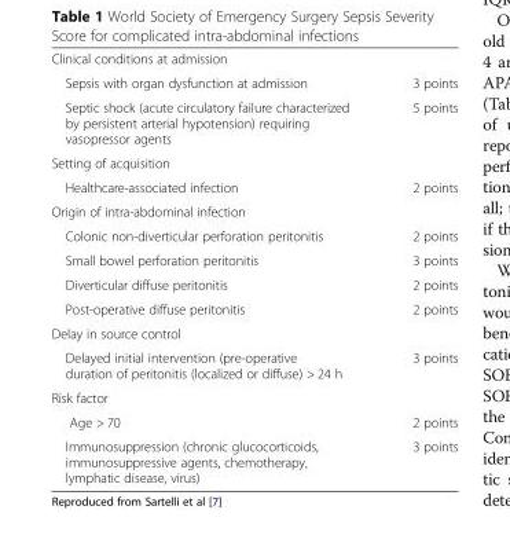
<table><tbody><tr><td colspan="2">Clinical conditions at admission</td></tr><tr><td>Sepsis with organ dysfunction at admission</td><td>3 points</td></tr><tr><td>Septic shock (acute circulatory failure characterized by persistent arterial hypotension) requiring vasopressor agents</td><td>5 points</td></tr><tr><td colspan="2">Setting of acquisition</td></tr><tr><td>Healthcare-associated infection</td><td>2 points</td></tr><tr><td colspan="2">Origin of intra-abdominal infection</td></tr><tr><td>Colonic non-diverticular perforation peritonitis</td><td>2 points</td></tr><tr><td>Small bowel perforation peritonitis</td><td>3 points</td></tr><tr><td>Diverticular diffuse peritonitis</td><td>2 points</td></tr><tr><td>Post-operative diffuse peritonitis</td><td>2 points</td></tr><tr><td colspan="2">Delay in source control</td></tr><tr><td>Delayed initial intervention (pre-operative duration of peritonitis (localized or diffuse) &gt; 24 h</td><td>3 points</td></tr><tr><td colspan="2">Risk factor</td></tr><tr><td>Age &gt; 70</td><td>2 points</td></tr><tr><td>Immunosuppression (chronic glucocorticoids, immunosuppressive agents, chemotherapy, lymphatic disease, virus)</td><td>3 points</td></tr></tbody></table>